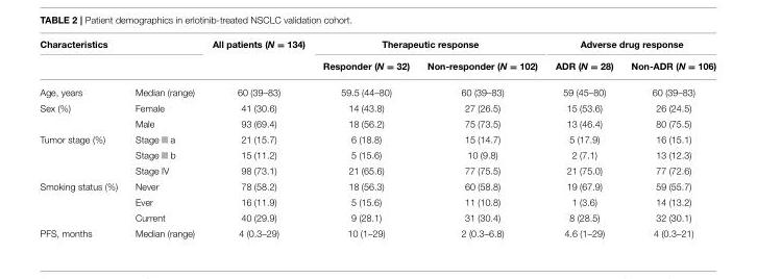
<table><thead><tr><td colspan="2">Characteristics</td><td rowspan="2">All patients (N = 134)</td><td colspan="2">Therapeutic response</td><td colspan="2">Adverse drug response</td></tr><tr><td></td><td></td><td>Responder (N = 32)</td><td>Non-responder (N = 102)</td><td>ADR (N = 28)</td><td>Non-ADR (N = 106)</td></tr></thead><tbody><tr><td>Age, years</td><td>Median (range)</td><td>60 (39–83)</td><td>59.5 (44–80)</td><td>60 (39–83)</td><td>59 (45–80)</td><td>60 (39–83)</td></tr><tr><td rowspan="2">Sex (%)</td><td>Female</td><td>41 (30.6)</td><td>14 (43.8)</td><td>27 (26.5)</td><td>15 (53.6)</td><td>26 (24.5)</td></tr><tr><td>Male</td><td>93 (69.4)</td><td>18 (56.2)</td><td>75 (73.5)</td><td>13 (46.4)</td><td>80 (75.5)</td></tr><tr><td rowspan="3">Tumor stage (%)</td><td>Stage III a</td><td>21 (15.7)</td><td>6 (18.8)</td><td>15 (14.7)</td><td>5 (17.9)</td><td>16 (15.1)</td></tr><tr><td>Stage III b</td><td>15 (11.2)</td><td>5 (15.6)</td><td>10 (9.8)</td><td>2 (7.1)</td><td>13 (12.3)</td></tr><tr><td>Stage IV</td><td>98 (73.1)</td><td>21 (65.6)</td><td>77 (75.5)</td><td>21 (75.0)</td><td>77 (72.6)</td></tr><tr><td rowspan="3">Smoking status (%)</td><td>Never</td><td>78 (58.2)</td><td>18 (56.3)</td><td>60 (58.8)</td><td>19 (67.9)</td><td>59 (55.7)</td></tr><tr><td>Ever</td><td>16 (11.9)</td><td>5 (15.6)</td><td>11 (10.8)</td><td>1 (3.6)</td><td>14 (13.2)</td></tr><tr><td>Current</td><td>40 (29.9)</td><td>9 (28.1)</td><td>31 (30.4)</td><td>8 (28.5)</td><td>32 (30.1)</td></tr><tr><td>PFS, months</td><td>Median (range)</td><td>4 (0.3–29)</td><td>10 (1–29)</td><td>2 (0.3–6.8)</td><td>4.6 (1–29)</td><td>4 (0.3–21)</td></tr></tbody></table>